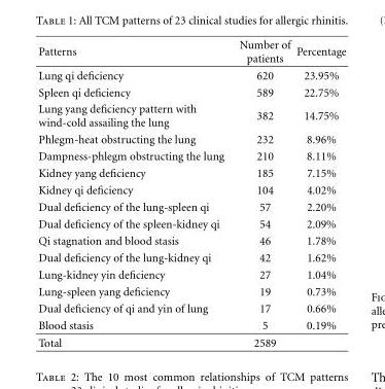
<table><thead><tr><td>Patterns</td><td>Number of patients</td><td>Percentage</td></tr></thead><tbody><tr><td>Lung qi deficiency</td><td>620</td><td>23.95%</td></tr><tr><td>Spleen qi deficiency</td><td>589</td><td>22.75%</td></tr><tr><td>Lung yang deficiency pattern with wind-cold assailing the lung</td><td>382</td><td>14.75%</td></tr><tr><td>Phlegm-heat obstructing the lung</td><td>232</td><td>8.96%</td></tr><tr><td>Dampness-phlegm obstructing the lung</td><td>210</td><td>8.11%</td></tr><tr><td>Kidney yang deficiency</td><td>185</td><td>7.15%</td></tr><tr><td>Kidney qi deficiency</td><td>104</td><td>4.02%</td></tr><tr><td>Dual deficiency of the lung-spleen qi</td><td>57</td><td>2.20%</td></tr><tr><td>Dual deficiency of the spleen-kidney qi</td><td>54</td><td>2.09%</td></tr><tr><td>Qi stagnation and blood stasis</td><td>46</td><td>1.78%</td></tr><tr><td>Dual deficiency of the lung-kidney qi</td><td>42</td><td>1.62%</td></tr><tr><td>Lung-kidney yin deficiency</td><td>27</td><td>1.04%</td></tr><tr><td>Lung-spleen yang deficiency</td><td>19</td><td>0.73%</td></tr><tr><td>Dual deficiency of qi and yin of lung</td><td>17</td><td>0.66%</td></tr><tr><td>Blood stasis</td><td>5</td><td>0.19%</td></tr><tr><td>Total</td><td>2589</td><td></td></tr></tbody></table>